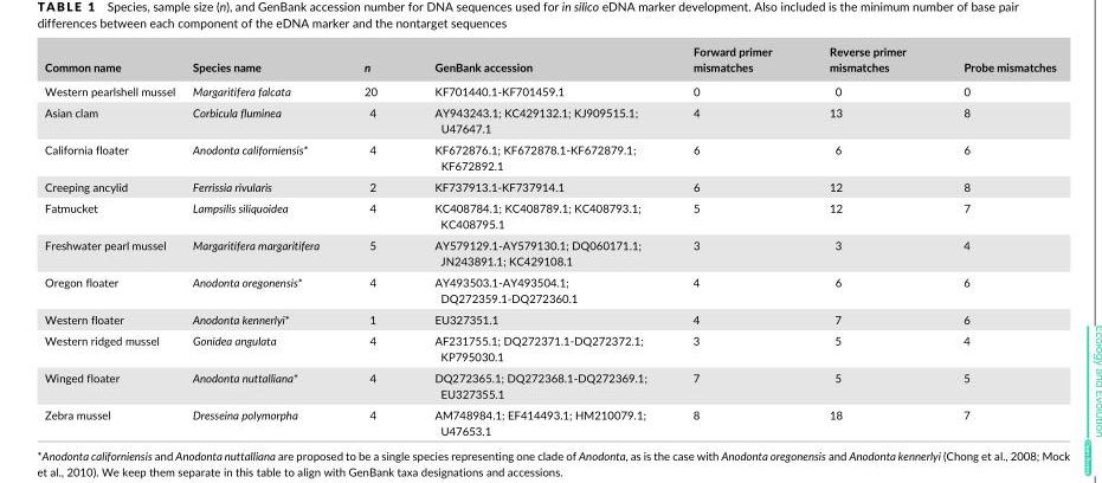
<table><thead><tr><td>Common name</td><td>Species name</td><td>n</td><td>GenBank accession</td><td>Forward primer mismatches</td><td>Reverse primer mismatches</td><td>Probe mismatches</td></tr></thead><tbody><tr><td>Western pearlshell mussel</td><td>Margaritifera falcata</td><td>20</td><td>KF701440.1- KF701459.1</td><td>0</td><td>0</td><td>0</td></tr><tr><td>Asian clam</td><td>Corbicula fluminea</td><td>4</td><td>AY943243.1; KC429132.1; KJ909515.1; U47647.1</td><td>4</td><td>13</td><td>8</td></tr><tr><td>California floater</td><td>Anodonta californiensis*</td><td>4</td><td>KF672876.1; KF672878.1- KF672879.1; KF672892.1</td><td>6</td><td>6</td><td>6</td></tr><tr><td>Creeping ancylid</td><td>Ferrissia rivularis</td><td>2</td><td>KF737913.1- KF737914.1</td><td>6</td><td>12</td><td>8</td></tr><tr><td>Fatmucket</td><td>Lampsilis siliquoidea</td><td>4</td><td>KC408784.1; KC408789.1; KC408793.1; KC408795.1</td><td>5</td><td>12</td><td>7</td></tr><tr><td>Freshwater pearl mussel</td><td>Margaritifera margaritifera</td><td>5</td><td>AY579129.1- AY579130.1; DQ060171.1; JN243891.1; KC429108.1</td><td>3</td><td>3</td><td>4</td></tr><tr><td>Oregon floater</td><td>Anodonta oregonensis*</td><td>4</td><td>AY493503.1- AY493504.1; DQ272359.1- DQ272360.1</td><td>4</td><td>6</td><td>6</td></tr><tr><td>Western floater</td><td>Anodonta kennerlyi*</td><td>1</td><td>EU327351.1</td><td>4</td><td>7</td><td>6</td></tr><tr><td>Western ridged mussel</td><td>Gonidea angulata</td><td>4</td><td>AF231755.1; DQ272371.1- DQ272372.1; KP795030.1</td><td>3</td><td>5</td><td>4</td></tr><tr><td>Winged floater</td><td>Anodonta nuttalliana*</td><td>4</td><td>DQ272365.1; DQ272368.1- DQ272369.1; EU327355.1</td><td>7</td><td>5</td><td>5</td></tr><tr><td>Zebra mussel</td><td>Dresseina polymorpha</td><td>4</td><td>AM748984.1; EF414493.1; HM210079.1; U47653.1</td><td>8</td><td>18</td><td>7</td></tr></tbody></table>